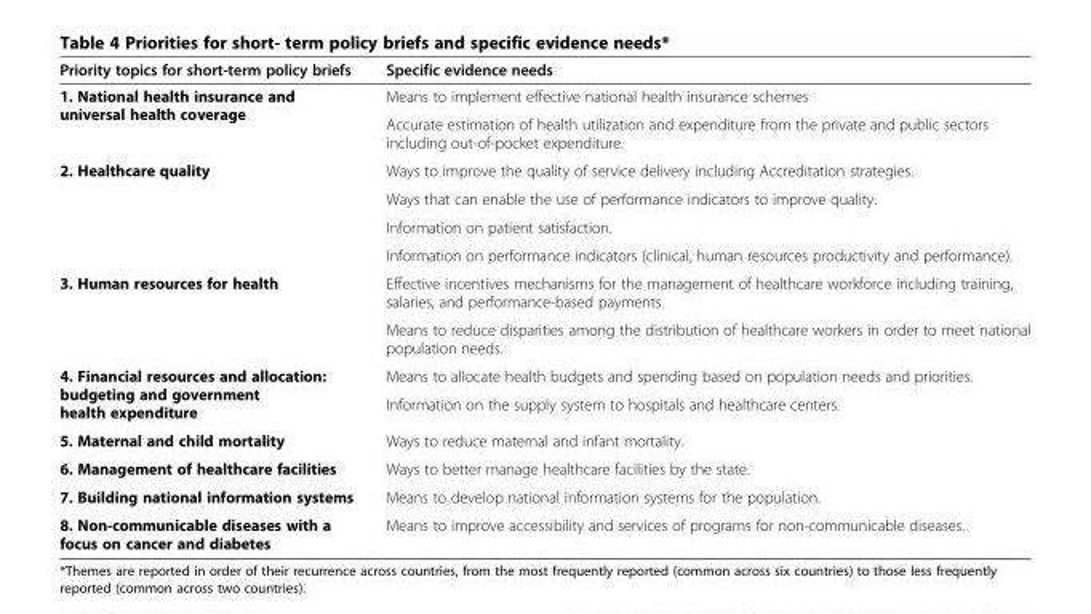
<table><thead><tr><td>Priority topics for short-term policy briefs</td><td>Specific evidence needs</td></tr></thead><tbody><tr><td rowspan="2">1. National health insurance and universal health coverage</td><td>Means to implement effective national health insurance schemes</td></tr><tr><td>Accurate estimation of health utilization and expenditure from the private and public sectors including out-of-pocket expenditure.</td></tr><tr><td rowspan="4">2. Healthcare quality</td><td>Ways to improve the quality of service delivery including Accreditation strategies.</td></tr><tr><td>Ways that can enable the use of performance indicators to improve quality.</td></tr><tr><td>Information on patient satisfaction.</td></tr><tr><td>Information on performance indicators (clinical, human resources productivity and performance).</td></tr><tr><td rowspan="2">3. Human resources for health</td><td>Effective incentives mechanisms for the management of healthcare workforce including training, salaries, and performance-based payments.</td></tr><tr><td>Means to reduce disparities among the distribution of healthcare workers in order to meet national population needs.</td></tr><tr><td rowspan="2">4. Financial resources and allocation: budgeting and government health expenditure</td><td>Means to allocate health budgets and spending based on population needs and priorities.</td></tr><tr><td>Information on the supply system to hospitals and healthcare centers.</td></tr><tr><td>5. Maternal and child mortality</td><td>Ways to reduce maternal and infant mortality.</td></tr><tr><td>6. Management of healthcare facilities</td><td>Ways to better manage healthcare facilities by the state.</td></tr><tr><td>7. Building national information systems</td><td>Means to develop national information systems for the population.</td></tr><tr><td>8. Non-communicable diseases with a focus on cancer and diabetes</td><td>Means to improve accessibility and services of programs for non-communicable diseases.</td></tr></tbody></table>